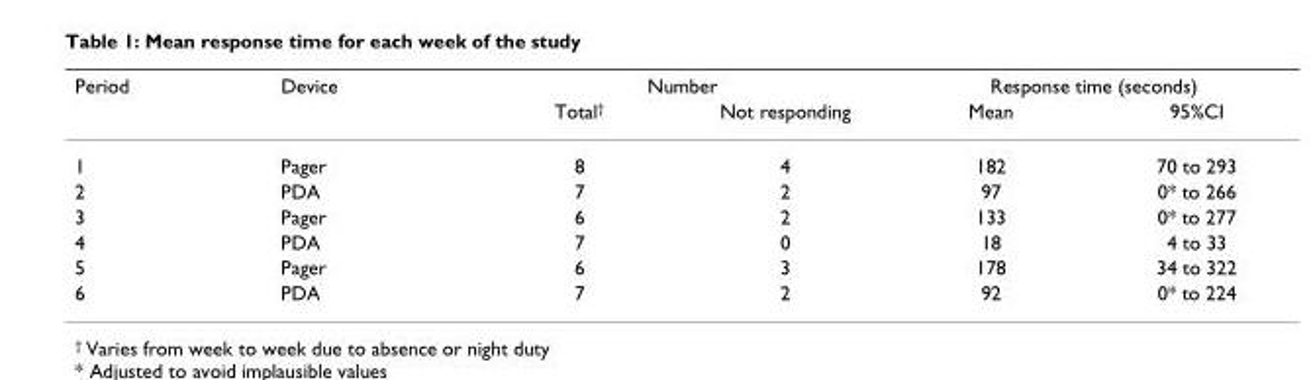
<table><thead><tr><td rowspan="2">Period</td><td rowspan="2">Device</td><td colspan="2">Number</td><td colspan="2">Response time (seconds)</td></tr><tr><td>Total<sup>†</sup></td><td>Not responding</td><td>Mean</td><td>95%CI</td></tr></thead><tbody><tr><td>1</td><td>Pager</td><td>8</td><td>4</td><td>182</td><td>70 to 293</td></tr><tr><td>2</td><td>PDA</td><td>7</td><td>2</td><td>97</td><td>0* to 266</td></tr><tr><td>3</td><td>Pager</td><td>6</td><td>2</td><td>133</td><td>0* to 277</td></tr><tr><td>4</td><td>PDA</td><td>7</td><td>0</td><td>18</td><td>4 to 33</td></tr><tr><td>5</td><td>Pager</td><td>6</td><td>3</td><td>178</td><td>34 to 322</td></tr><tr><td>6</td><td>PDA</td><td>7</td><td>2</td><td>92</td><td>0* to 224</td></tr></tbody></table>